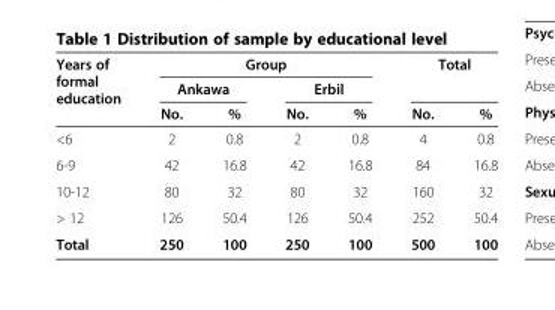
<table><thead><tr><td rowspan="3">Years of formal education</td><td colspan="4">Group</td><td rowspan="2" colspan="2">Total</td></tr><tr><td colspan="2">Ankawa</td><td colspan="2">Erbil</td></tr><tr><td>No.</td><td>%</td><td>No.</td><td>%</td><td>No.</td><td>%</td></tr></thead><tbody><tr><td>&lt;6</td><td>2</td><td>0.8</td><td>2</td><td>0.8</td><td>4</td><td>0.8</td></tr><tr><td>6-9</td><td>42</td><td>16.8</td><td>42</td><td>16.8</td><td>84</td><td>16.8</td></tr><tr><td>10-12</td><td>80</td><td>32</td><td>80</td><td>32</td><td>160</td><td>32</td></tr><tr><td>&gt; 12</td><td>126</td><td>50.4</td><td>126</td><td>50.4</td><td>252</td><td>50.4</td></tr><tr><td>Total</td><td>250</td><td>100</td><td>250</td><td>100</td><td>500</td><td>100</td></tr></tbody></table>